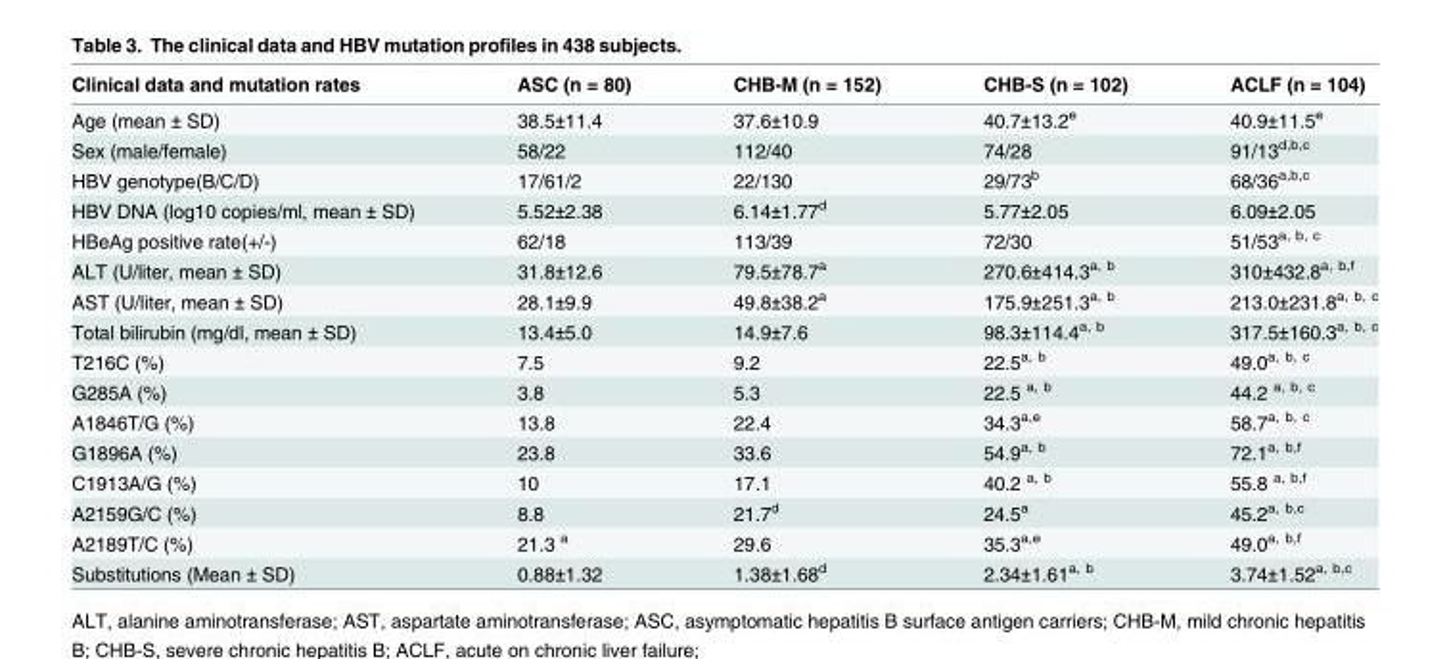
<table><thead><tr><td>Clinical data and mutation rates</td><td>ASC (n = 80)</td><td>CHB-M (n = 152)</td><td>CHB-S (n = 102)</td><td>ACLF (n = 104)</td></tr></thead><tbody><tr><td>Age (mean ± SD)</td><td>38.5±11.4</td><td>37.6±10.9</td><td>40.7±13.2<sup>e</sup></td><td>40.9±11.5<sup>e</sup></td></tr><tr><td>Sex (male/female)</td><td>58/22</td><td>112/40</td><td>74/28</td><td>91/13<sup>d,b,c</sup></td></tr><tr><td>HBV genotype(B/C/D)</td><td>17/61/2</td><td>22/130</td><td>29/73<sup>b</sup></td><td>68/36<sup>a,b,c</sup></td></tr><tr><td>HBV DNA (log10 copies/ml, mean ± SD)</td><td>5.52±2.38</td><td>6.14±1.77<sup>d</sup></td><td>5.77±2.05</td><td>6.09±2.05</td></tr><tr><td>HBeAg positive rate(+/-)</td><td>62/18</td><td>113/39</td><td>72/30</td><td>51/53<sup>a, b, c</sup></td></tr><tr><td>ALT (U/liter, mean ± SD)</td><td>31.8±12.6</td><td>79.5±78.7<sup>a</sup></td><td>270.6±414.3<sup>a, b</sup></td><td>310±432.8<sup>a, b,f</sup></td></tr><tr><td>AST (U/liter, mean ± SD)</td><td>28.1±9.9</td><td>49.8±38.2<sup>a</sup></td><td>175.9±251.3<sup>a, b</sup></td><td>213.0±231.8<sup>a, b, c</sup></td></tr><tr><td>Total bilirubin (mg/dl, mean ± SD)</td><td>13.4±5.0</td><td>14.9±7.6</td><td>98.3±114.4<sup>a, b</sup></td><td>317.5±160.3<sup>a, b, c</sup></td></tr><tr><td>T216C (%)</td><td>7.5</td><td>9.2</td><td>22.5<sup>a, b</sup></td><td>49.0<sup>a, b, c</sup></td></tr><tr><td>G285A (%)</td><td>3.8</td><td>5.3</td><td>22.5 <sup>a, b</sup></td><td>44.2 <sup>a, b, c</sup></td></tr><tr><td>A1846T/G (%)</td><td>13.8</td><td>22.4</td><td>34.3<sup>a,e</sup></td><td>58.7<sup>a, b, c</sup></td></tr><tr><td>G1896A (%)</td><td>23.8</td><td>33.6</td><td>54.9<sup>a, b</sup></td><td>72.1<sup>a, b,f</sup></td></tr><tr><td>C1913A/G (%)</td><td>10</td><td>17.1</td><td>40.2 <sup>a, b</sup></td><td>55.8 <sup>a, b,f</sup></td></tr><tr><td>A2159G/C (%)</td><td>8.8</td><td>21.7<sup>d</sup></td><td>24.5<sup>a</sup></td><td>45.2<sup>a, b,c</sup></td></tr><tr><td>A2189T/C (%)</td><td>21.3 <sup>a</sup></td><td>29.6</td><td>35.3<sup>a,e</sup></td><td>49.0<sup>a, b,f</sup></td></tr><tr><td>Substitutions (Mean ± SD)</td><td>0.88±1.32</td><td>1.38±1.68<sup>d</sup></td><td>2.34±1.61<sup>a, b</sup></td><td>3.74±1.52<sup>a, b,c</sup></td></tr></tbody></table>